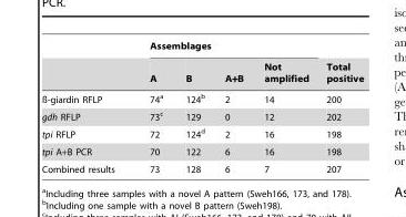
<table><thead><tr><td rowspan="2"></td><td colspan="4">Assemblages</td><td rowspan="2">Total positive</td></tr><tr><td>A</td><td>B</td><td>A+B</td><td>Not amplified</td></tr></thead><tbody><tr><td>ß-giardin RFLP</td><td>74<sup>a</sup></td><td>124<sup>b</sup></td><td>2</td><td>14</td><td>200</td></tr><tr><td>gdh RFLP</td><td>73<sup>c</sup></td><td>129</td><td>0</td><td>12</td><td>202</td></tr><tr><td>tpi RFLP</td><td>72</td><td>124<sup>d</sup></td><td>2</td><td>16</td><td>198</td></tr><tr><td>tpi A+B PCR</td><td>70</td><td>122</td><td>6</td><td>16</td><td>198</td></tr><tr><td>Combined results</td><td>73</td><td>128</td><td>6</td><td>7</td><td>207</td></tr></tbody></table>